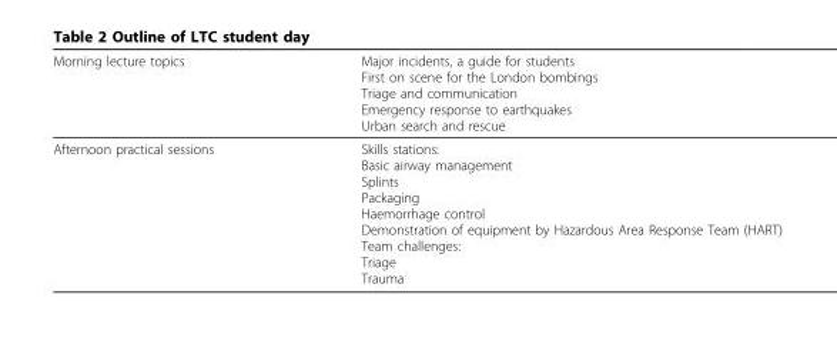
<table><thead><tr><td>Morning lecture topics</td><td>Major incidents, a guide for students First on scene for the London bombings Triage and communication Emergency response to earthquakes Urban search and rescue</td></tr></thead><tbody><tr><td>Afternoon practical sessions</td><td>Skills stations: Basic airway management Splints Packaging Haemorrhage control Demonstration of equipment by Hazardous Area Response Team (HART) Team challenges: Triage Trauma</td></tr></tbody></table>